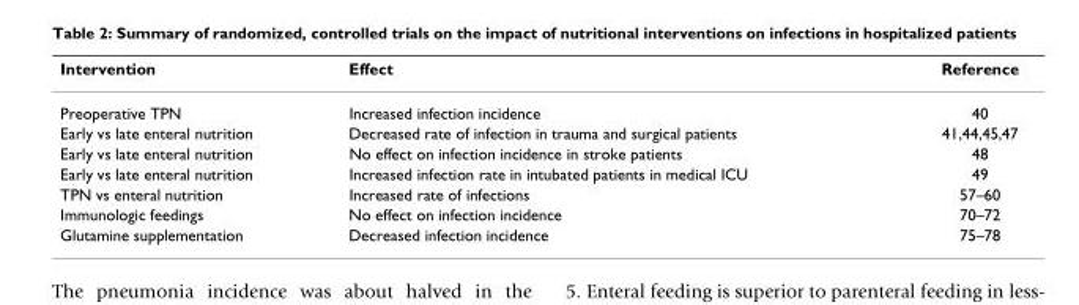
<table><thead><tr><td>Intervention</td><td>Effect</td><td>Reference</td></tr></thead><tbody><tr><td>Preoperative TPN</td><td>Increased infection incidence</td><td>40</td></tr><tr><td>Early vs late enteral nutrition</td><td>Decreased rate of infection in trauma and surgical patients</td><td>41,44,45,47</td></tr><tr><td>Early vs late enteral nutrition</td><td>No effect on infection incidence in stroke patients</td><td>48</td></tr><tr><td>Early vs late enteral nutrition</td><td>Increased infection rate in intubated patients in medical ICU</td><td>49</td></tr><tr><td>TPN vs enteral nutrition</td><td>Increased rate of infections</td><td>57–60</td></tr><tr><td>Immunologic feedings</td><td>No effect on infection incidence</td><td>70–72</td></tr><tr><td>Glutamine supplementation</td><td>Decreased infection incidence</td><td>75–78</td></tr></tbody></table>